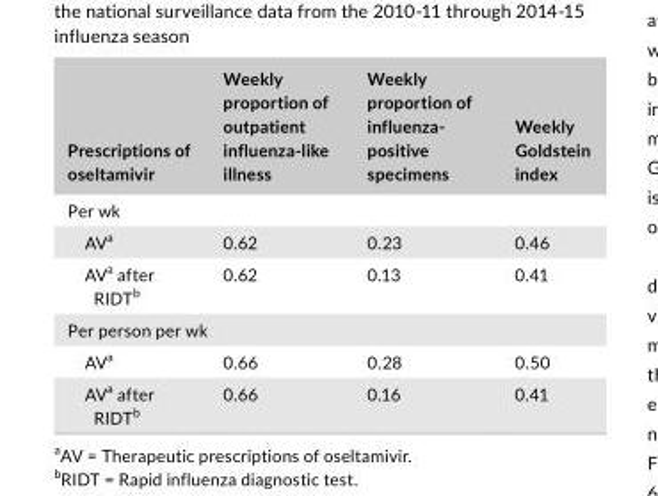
<table><thead><tr><td>Prescriptions of oseltamivir</td><td>Weekly proportion of outpatient influenza- like illness</td><td>Weekly proportion of influenza- positive specimens</td><td>Weekly Goldstein index</td></tr></thead><tbody><tr><td colspan="4">Per wk</td></tr><tr><td>AV<sup>a</sup></td><td>0.62</td><td>0.23</td><td>0.46</td></tr><tr><td>AV<sup>a</sup> after RIDT<sup>b</sup></td><td>0.62</td><td>0.13</td><td>0.41</td></tr><tr><td colspan="4">Per person per wk</td></tr><tr><td>AV<sup>a</sup></td><td>0.66</td><td>0.28</td><td>0.50</td></tr><tr><td>AV<sup>a</sup> after RIDT<sup>b</sup></td><td>0.66</td><td>0.16</td><td>0.41</td></tr></tbody></table>